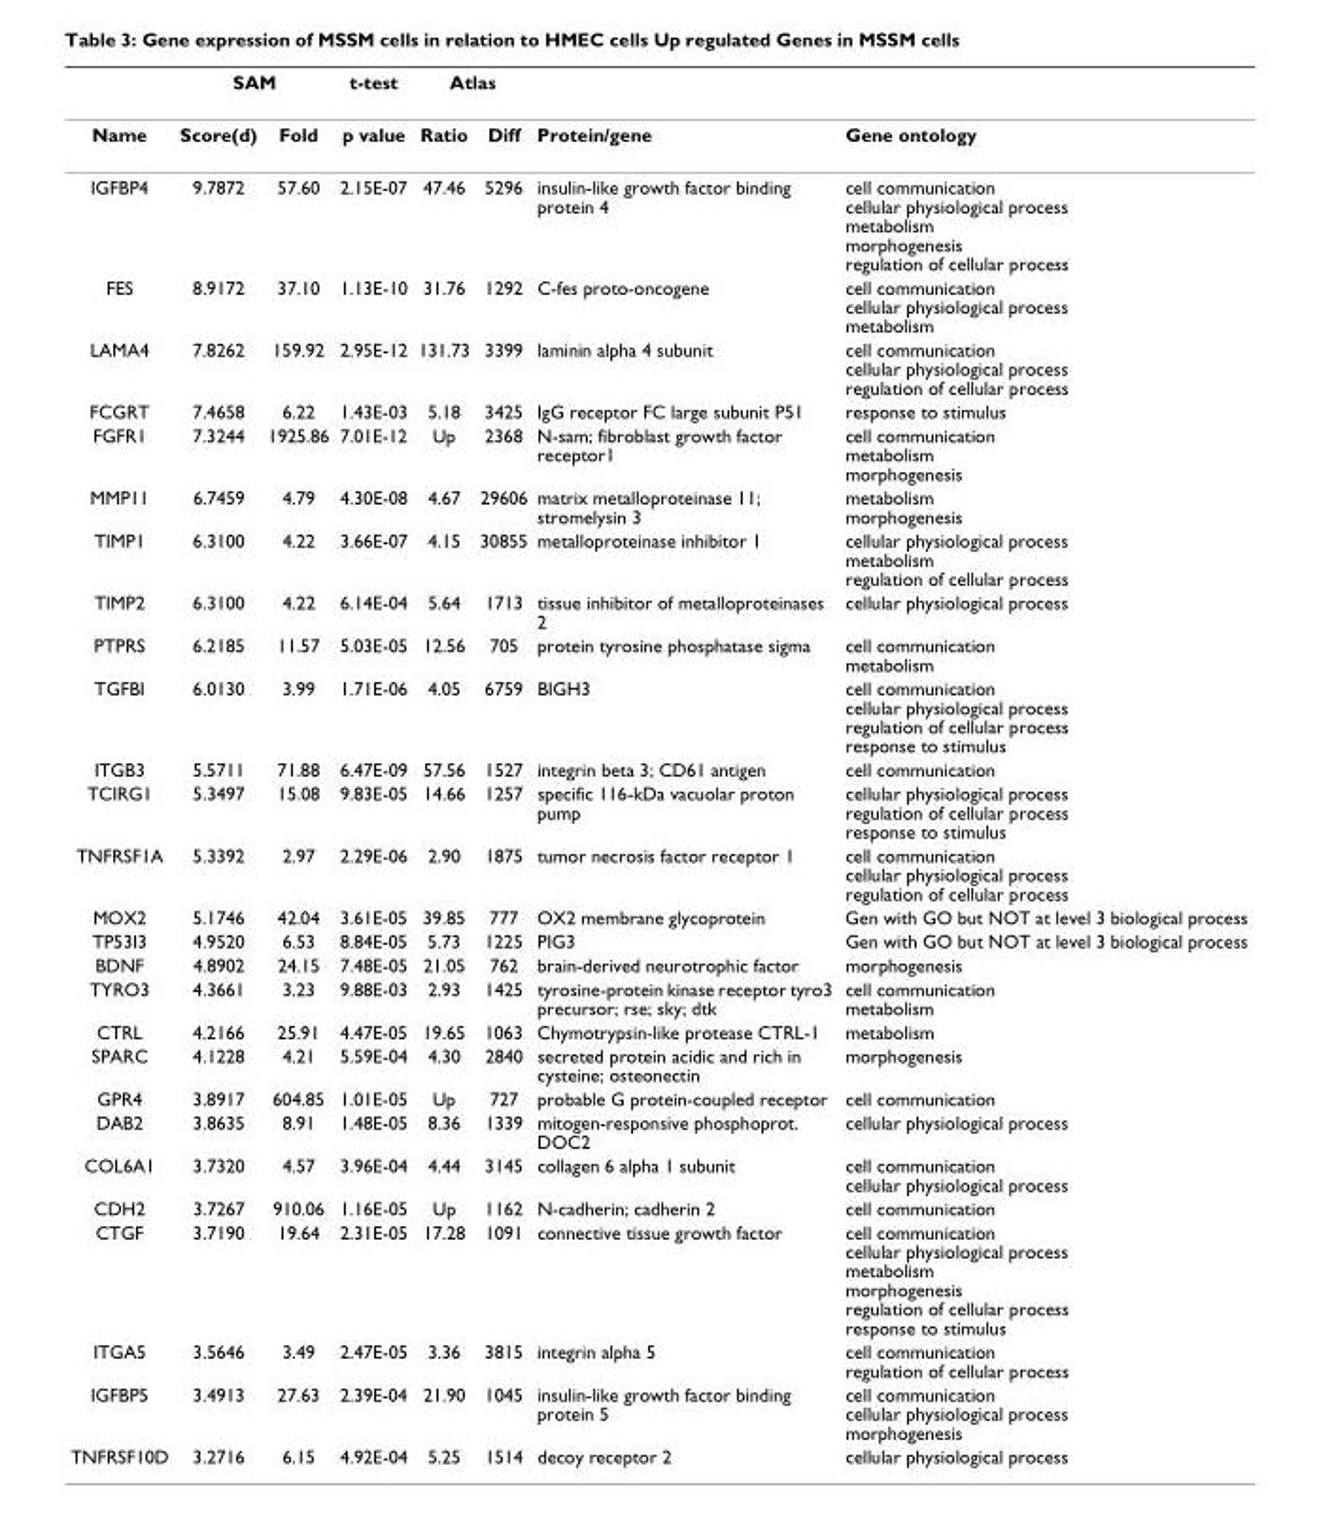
<table><thead><tr><td rowspan="2">Name</td><td colspan="2">SAM</td><td rowspan="2">t-test p value</td><td colspan="2">Atlas</td><td rowspan="2">Protein/gene</td><td rowspan="2">Gene ontology</td></tr><tr><td>Score(d)</td><td>Fold</td><td>Ratio</td><td>Diff</td></tr></thead><tbody><tr><td>IGFBP4</td><td>9.7872</td><td>57.60</td><td>2.15E-07</td><td>47.46</td><td>5296</td><td>insulin-like growth factor binding protein 4</td><td>cell communication cellular physiological process metabolism morphogenesis regulation of cellular process</td></tr><tr><td>FES</td><td>8.9172</td><td>37.10</td><td>1.13E-10</td><td>31.76</td><td>1292</td><td>C-fes proto-oncogene</td><td>cell communication cellular physiological process metabolism</td></tr><tr><td>LAMA4</td><td>7.8262</td><td>159.92</td><td>2.95E-12</td><td>131.73</td><td>3399</td><td>laminin alpha 4 subunit</td><td>cell communication cellular physiological process regulation of cellular process</td></tr><tr><td>FCGRT</td><td>7.4658</td><td>6.22</td><td>1.43E-03</td><td>5.18</td><td>3425</td><td>IgG receptor FC large subunit P51</td><td>response to stimulus</td></tr><tr><td>FGFR1</td><td>7.3244</td><td>1925.86</td><td>7.01E-12</td><td>Up</td><td>2368</td><td>N-sam; fibroblast growth factor receptor1</td><td>cell communication metabolism morphogenesis</td></tr><tr><td>MMP11</td><td>6.7459</td><td>4.79</td><td>4.30E-08</td><td>4.67</td><td>29606</td><td>matrix metalloproteinase 11; stromelysin 3</td><td>metabolism morphogenesis</td></tr><tr><td>TIMP1</td><td>6.3100</td><td>4.22</td><td>3.66E-07</td><td>4.15</td><td>30855</td><td>metalloproteinase inhibitor 1</td><td>cellular physiological process metabolism regulation of cellular process</td></tr><tr><td>TIMP2</td><td>6.3100</td><td>4.22</td><td>6.14E-04</td><td>5.64</td><td>1713</td><td>tissue inhibitor of metalloproteinases 2</td><td>cellular physiological process</td></tr><tr><td>PTPRS</td><td>6.2185</td><td>11.57</td><td>5.03E-05</td><td>12.56</td><td>705</td><td>protein tyrosine phosphatase sigma</td><td>cell communication metabolism</td></tr><tr><td>TGFBI</td><td>6.0130</td><td>3.99</td><td>1.71E-06</td><td>4.05</td><td>6759</td><td>BIGH3</td><td>cell communication cellular physiological process regulation of cellular process response to stimulus</td></tr><tr><td>ITGB3</td><td>5.5711</td><td>71.88</td><td>6.47E-09</td><td>57.56</td><td>1527</td><td>integrin beta 3; CD61 antigen</td><td>cell communication</td></tr><tr><td>TCIRG1</td><td>5.3497</td><td>15.08</td><td>9.83E-05</td><td>14.66</td><td>1257</td><td>specific 116-kDa vacuolar proton pump</td><td>cellular physiological process regulation of cellular process response to stimulus</td></tr><tr><td>TNFRSF1A</td><td>5.3392</td><td>2.97</td><td>2.29E-06</td><td>2.90</td><td>1875</td><td>tumor necrosis factor receptor 1</td><td>cell communication cellular physiological process regulation of cellular process</td></tr><tr><td>MOX2</td><td>5.1746</td><td>42.04</td><td>3.61E-05</td><td>39.85</td><td>777</td><td>OX2 membrane glycoprotein</td><td>Gen with GO but NOT at level 3 biological process</td></tr><tr><td>TP53I3</td><td>4.9520</td><td>6.53</td><td>8.84E-05</td><td>5.73</td><td>1225</td><td>PIG3</td><td>Gen with GO but NOT at level 3 biological process</td></tr><tr><td>BDNF</td><td>4.8902</td><td>24.15</td><td>7.48E-05</td><td>21.05</td><td>762</td><td>brain-derived neurotrophic factor</td><td>morphogenesis</td></tr><tr><td>TYRO3</td><td>4.3661</td><td>3.23</td><td>9.88E-03</td><td>2.93</td><td>1425</td><td>tyrosine-protein kinase receptor tyro3 precursor; rse; sky; dtk</td><td>cell communication metabolism</td></tr><tr><td>CTRL</td><td>4.2166</td><td>25.91</td><td>4.47E-05</td><td>19.65</td><td>1063</td><td>Chymotrypsin-like protease CTRL-1</td><td>metabolism</td></tr><tr><td>SPARC</td><td>4.1228</td><td>4.21</td><td>5.59E-04</td><td>4.30</td><td>2840</td><td>secreted protein acidic and rich in cysteine; osteonectin</td><td>morphogenesis</td></tr><tr><td>GPR4</td><td>3.8917</td><td>604.85</td><td>1.01E-05</td><td>Up</td><td>727</td><td>probable G protein-coupled receptor</td><td>cell communication</td></tr><tr><td>DAB2</td><td>3.8635</td><td>8.91</td><td>1.48E-05</td><td>8.36</td><td>1339</td><td>mitogen-responsive phosphoprot. DOC2</td><td>cellular physiological process</td></tr><tr><td>COL6A1</td><td>3.7320</td><td>4.57</td><td>3.96E-04</td><td>4.44</td><td>3145</td><td>collagen 6 alpha 1 subunit</td><td>cell communication cellular physiological process</td></tr><tr><td>CDH2</td><td>3.7267</td><td>910.06</td><td>1.16E-05</td><td>Up</td><td>1162</td><td>N-cadherin; cadherin 2</td><td>cell communication</td></tr><tr><td>CTGF</td><td>3.7190</td><td>19.64</td><td>2.31E-05</td><td>17.28</td><td>1091</td><td>connective tissue growth factor</td><td>cell communication cellular physiological process metabolism morphogenesis regulation of cellular process response to stimulus</td></tr><tr><td>ITGA5</td><td>3.5646</td><td>3.49</td><td>2.47E-05</td><td>3.36</td><td>3815</td><td>integrin alpha 5</td><td>cell communication regulation of cellular process</td></tr><tr><td>IGFBP5</td><td>3.4913</td><td>27.63</td><td>2.39E-04</td><td>21.90</td><td>1045</td><td>insulin-like growth factor binding protein 5</td><td>cell communication cellular physiological process morphogenesis</td></tr><tr><td>TNFRSF10D</td><td>3.2716</td><td>6.15</td><td>4.92E-04</td><td>5.25</td><td>1514</td><td>decoy receptor 2</td><td>cellular physiological process</td></tr></tbody></table>